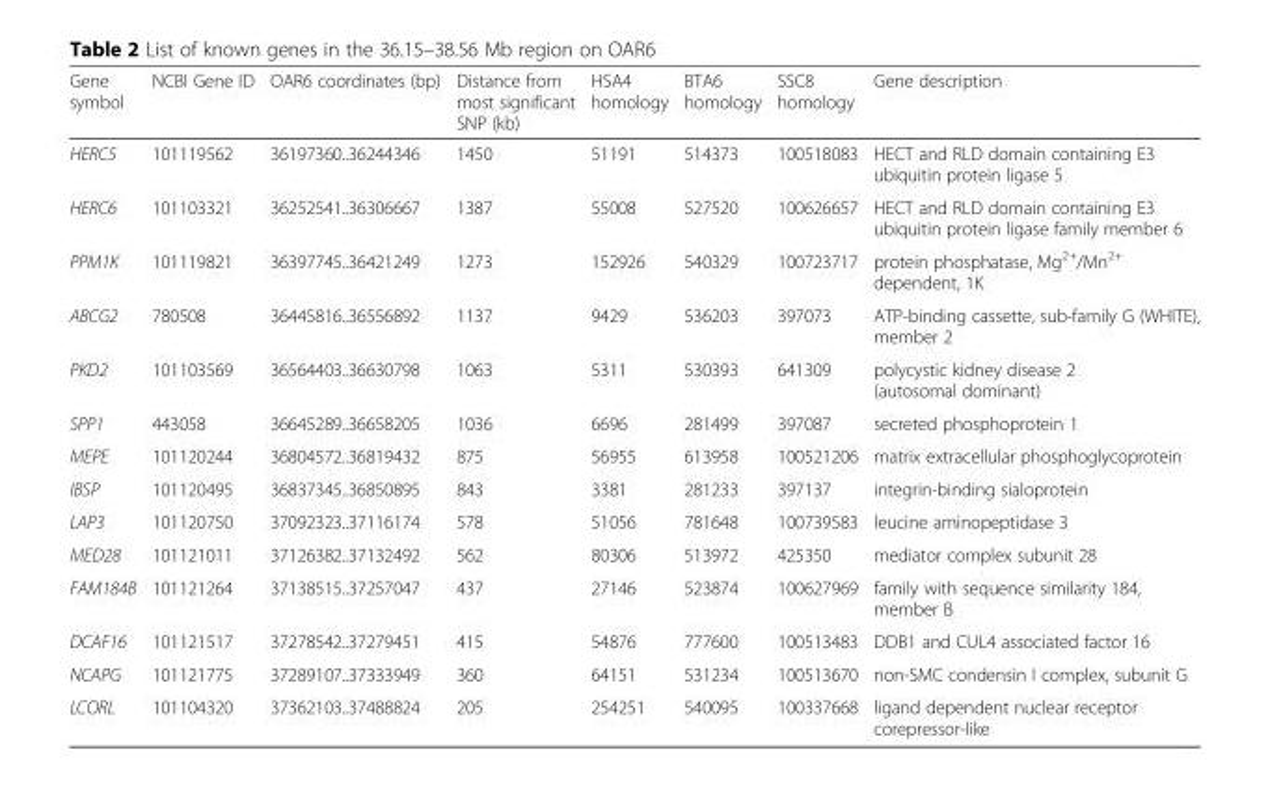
<table><thead><tr><td>Gene symbol</td><td>NCBI Gene ID</td><td>OAR6 coordinates (bp)</td><td>Distance from most significant SNP (kb)</td><td>HSA4 homology</td><td>BTA6 homology</td><td>SSC8 homology</td><td>Gene description</td></tr></thead><tbody><tr><td>HERC5</td><td>101119562</td><td>36197360..36244346</td><td>1450</td><td>51191</td><td>514373</td><td>100518083</td><td>HECT and RLD domain containing E3 ubiquitin protein ligase 5</td></tr><tr><td>HERC6</td><td>101103321</td><td>36252541..36306667</td><td>1387</td><td>55008</td><td>527520</td><td>100626657</td><td>HECT and RLD domain containing E3 ubiquitin protein ligase family member 6</td></tr><tr><td>PPM1K</td><td>101119821</td><td>36397745..36421249</td><td>1273</td><td>152926</td><td>540329</td><td>100723717</td><td>protein phosphatase, Mg<sup>2+</sup>/Mn<sup>2+</sup> dependent, 1K</td></tr><tr><td>ABCG2</td><td>780508</td><td>36445816..36556892</td><td>1137</td><td>9429</td><td>536203</td><td>397073</td><td>ATP-binding cassette, sub-family G (WHITE), member 2</td></tr><tr><td>PKD2</td><td>101103569</td><td>36564403..36630798</td><td>1063</td><td>5311</td><td>530393</td><td>641309</td><td>polycystic kidney disease 2 (autosomal dominant)</td></tr><tr><td>SPP1</td><td>443058</td><td>36645289..36658205</td><td>1036</td><td>6696</td><td>281499</td><td>397087</td><td>secreted phosphoprotein 1</td></tr><tr><td>MEPE</td><td>101120244</td><td>36804572..36819432</td><td>875</td><td>56955</td><td>613958</td><td>100521206</td><td>matrix extracellular phosphoglycoprotein</td></tr><tr><td>IBSP</td><td>101120495</td><td>36837345..36850895</td><td>843</td><td>3381</td><td>281233</td><td>397137</td><td>integrin-binding sialoprotein</td></tr><tr><td>LAP3</td><td>101120750</td><td>37092323..37116174</td><td>578</td><td>51056</td><td>781648</td><td>100739583</td><td>leucine aminopeptidase 3</td></tr><tr><td>MED28</td><td>101121011</td><td>37126382..37132492</td><td>562</td><td>80306</td><td>513972</td><td>425350</td><td>mediator complex subunit 28</td></tr><tr><td>FAM184B</td><td>101121264</td><td>37138515..37257047</td><td>437</td><td>27146</td><td>523874</td><td>100627969</td><td>family with sequence similarity 184, member B</td></tr><tr><td>DCAF16</td><td>101121517</td><td>37278542..37279451</td><td>415</td><td>54876</td><td>777600</td><td>100513483</td><td>DDB1 and CUL4 associated factor 16</td></tr><tr><td>NCAPG</td><td>101121775</td><td>37289107..37333949</td><td>360</td><td>64151</td><td>531234</td><td>100513670</td><td>non-SMC condensin I complex, subunit G</td></tr><tr><td>LCORL</td><td>101104320</td><td>37362103..37488824</td><td>205</td><td>254251</td><td>540095</td><td>100337668</td><td>ligand dependent nuclear receptor corepressor-like</td></tr></tbody></table>